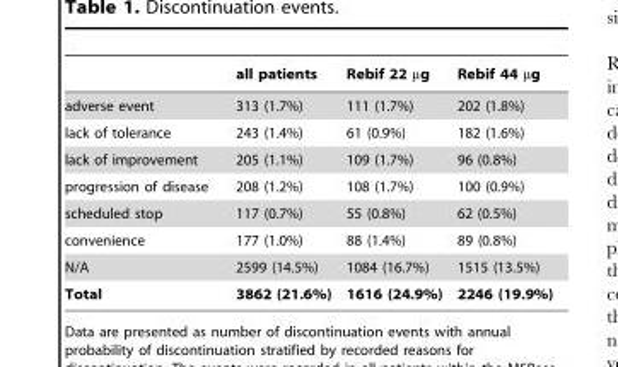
<table><thead><tr><td></td><td>all patients</td><td>Rebif 22 µg</td><td>Rebif 44 µg</td></tr></thead><tbody><tr><td>adverse event</td><td>313 (1.7%)</td><td>111 (1.7%)</td><td>202 (1.8%)</td></tr><tr><td>lack of tolerance</td><td>243 (1.4%)</td><td>61 (0.9%)</td><td>182 (1.6%)</td></tr><tr><td>lack of improvement</td><td>205 (1.1%)</td><td>109 (1.7%)</td><td>96 (0.8%)</td></tr><tr><td>progression of disease</td><td>208 (1.2%)</td><td>108 (1.7%)</td><td>100 (0.9%)</td></tr><tr><td>scheduled stop</td><td>117 (0.7%)</td><td>55 (0.8%)</td><td>62 (0.5%)</td></tr><tr><td>convenience</td><td>177 (1.0%)</td><td>88 (1.4%)</td><td>89 (0.8%)</td></tr><tr><td>N/A</td><td>2599 (14.5%)</td><td>1084 (16.7%)</td><td>1515 (13.5%)</td></tr><tr><td>Total</td><td>3862 (21.6%)</td><td>1616 (24.9%)</td><td>2246 (19.9%)</td></tr></tbody></table>